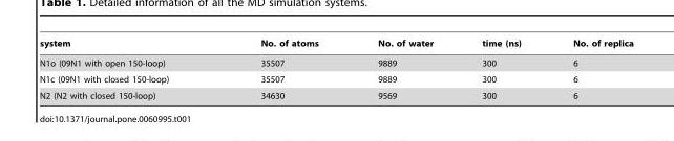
<table><thead><tr><td>system</td><td>No. of atoms</td><td>No. of water</td><td>time (ns)</td><td>No. of replica</td></tr></thead><tbody><tr><td>N1o (09N1 with open 150-loop)</td><td>35507</td><td>9889</td><td>300</td><td>6</td></tr><tr><td>N1c (09N1 with closed 150-loop)</td><td>35507</td><td>9889</td><td>300</td><td>6</td></tr><tr><td>N2 (N2 with closed 150-loop)</td><td>34630</td><td>9569</td><td>300</td><td>6</td></tr></tbody></table>